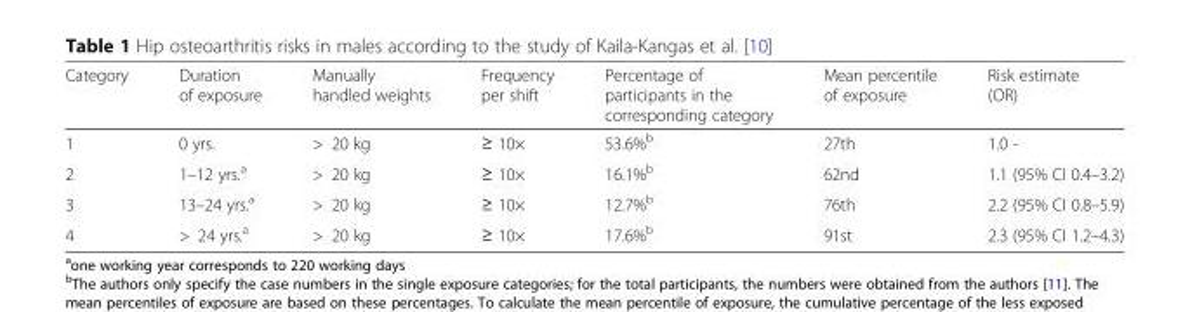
<table><thead><tr><td>Category</td><td>Duration of exposure</td><td>Manually handled weights</td><td>Frequency per shift</td><td>Percentage of participants in the corresponding category</td><td>Mean percentile of exposure</td><td>Risk estimate (OR)</td></tr></thead><tbody><tr><td>1</td><td>0 yrs.</td><td>&gt; 20 kg</td><td>≥ 10×</td><td>53.6%<sup>b</sup></td><td>27th</td><td>1.0 -</td></tr><tr><td>2</td><td>1–12 yrs.<sup>a</sup></td><td>&gt; 20 kg</td><td>≥ 10×</td><td>16.1%<sup>b</sup></td><td>62nd</td><td>1.1 (95% CI 0.4–3.2)</td></tr><tr><td>3</td><td>13–24 yrs.<sup>a</sup></td><td>&gt; 20 kg</td><td>≥ 10×</td><td>12.7%<sup>b</sup></td><td>76th</td><td>2.2 (95% CI 0.8–5.9)</td></tr><tr><td>4</td><td>&gt; 24 yrs.<sup>a</sup></td><td>&gt; 20 kg</td><td>≥ 10×</td><td>17.6%<sup>b</sup></td><td>91st</td><td>2.3 (95% CI 1.2–4.3)</td></tr></tbody></table>